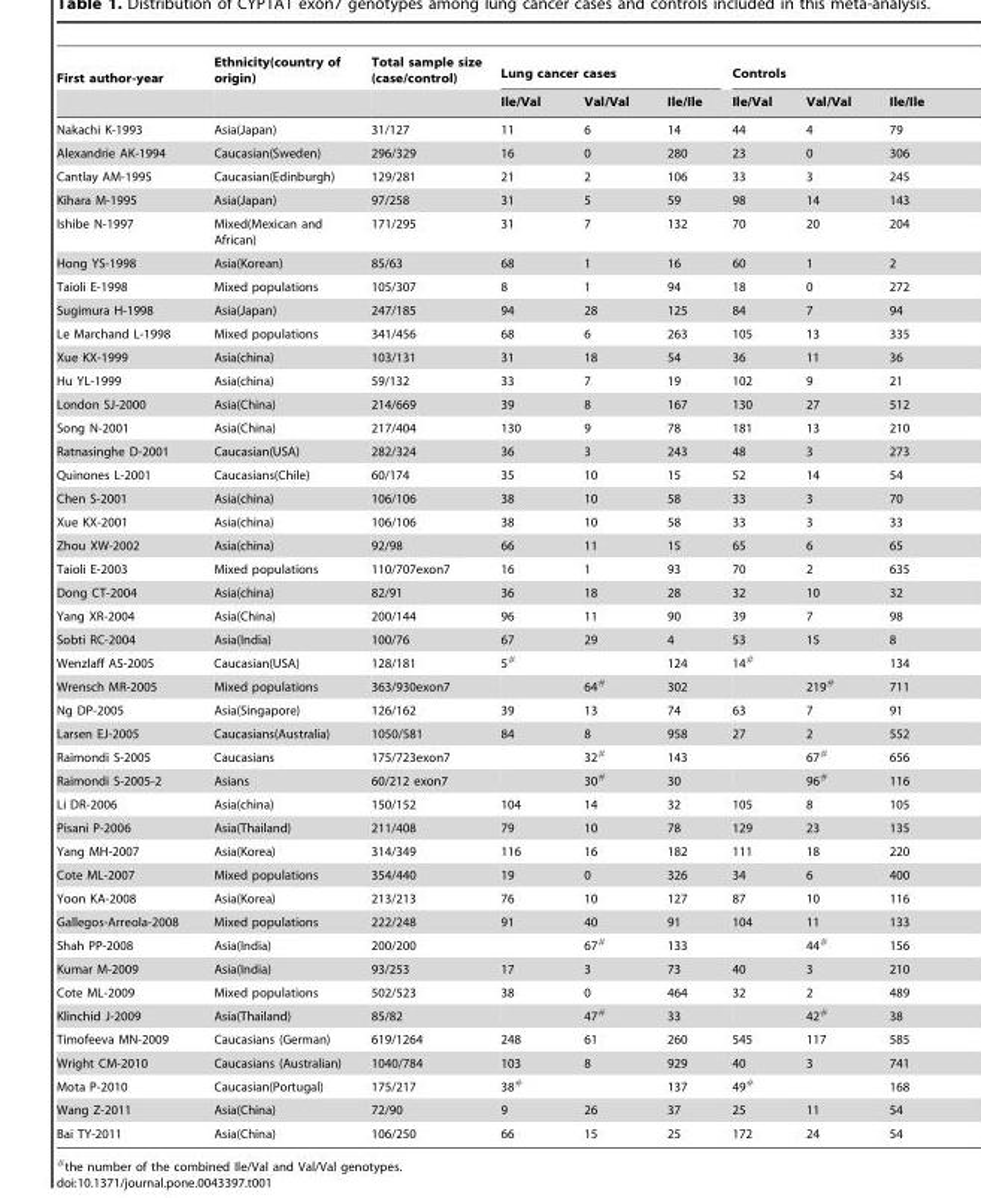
<table><thead><tr><td rowspan="2">First author-year</td><td rowspan="2">Ethnicity(country of origin)</td><td rowspan="2">Total sample size (case/control)</td><td colspan="3">Lung cancer cases</td><td colspan="3">Controls</td></tr><tr><td>Ile/Val</td><td>Val/Val</td><td>Ile/Ile</td><td>Ile/Val</td><td>Val/Val</td><td>Ile/Ile</td></tr></thead><tbody><tr><td>Nakachi K-1993</td><td>Asia(Japan)</td><td>31/127</td><td>11</td><td>6</td><td>14</td><td>44</td><td>4</td><td>79</td></tr><tr><td>Alexandrie AK-1994</td><td>Caucasian(Sweden)</td><td>296/329</td><td>16</td><td>0</td><td>280</td><td>23</td><td>0</td><td>306</td></tr><tr><td>Cantlay AM-1995</td><td>Caucasian(Edinburgh)</td><td>129/281</td><td>21</td><td>2</td><td>106</td><td>33</td><td>3</td><td>245</td></tr><tr><td>Kihara M-1995</td><td>Asia(Japan)</td><td>97/258</td><td>31</td><td>5</td><td>59</td><td>98</td><td>14</td><td>143</td></tr><tr><td>Ishibe N-1997</td><td>Mixed(Mexican and African)</td><td>171/295</td><td>31</td><td>7</td><td>132</td><td>70</td><td>20</td><td>204</td></tr><tr><td>Hong YS-1998</td><td>Asia(Korean)</td><td>85/63</td><td>68</td><td>1</td><td>16</td><td>60</td><td>1</td><td>2</td></tr><tr><td>Taioli E-1998</td><td>Mixed populations</td><td>105/307</td><td>8</td><td>1</td><td>94</td><td>18</td><td>0</td><td>272</td></tr><tr><td>Sugimura H-1998</td><td>Asia(Japan)</td><td>247/185</td><td>94</td><td>28</td><td>125</td><td>84</td><td>7</td><td>94</td></tr><tr><td>Le Marchand L-1998</td><td>Mixed populations</td><td>341/456</td><td>68</td><td>6</td><td>263</td><td>105</td><td>13</td><td>335</td></tr><tr><td>Xue KX-1999</td><td>Asia(china)</td><td>103/131</td><td>31</td><td>18</td><td>54</td><td>36</td><td>11</td><td>36</td></tr><tr><td>Hu YL-1999</td><td>Asia(china)</td><td>59/132</td><td>33</td><td>7</td><td>19</td><td>102</td><td>9</td><td>21</td></tr><tr><td>London SJ-2000</td><td>Asia(China)</td><td>214/669</td><td>39</td><td>8</td><td>167</td><td>130</td><td>27</td><td>512</td></tr><tr><td>Song N-2001</td><td>Asia(China)</td><td>217/404</td><td>130</td><td>9</td><td>78</td><td>181</td><td>13</td><td>210</td></tr><tr><td>Ratnasinghe D-2001</td><td>Caucasian(USA)</td><td>282/324</td><td>36</td><td>3</td><td>243</td><td>48</td><td>3</td><td>273</td></tr><tr><td>Quinones L-2001</td><td>Caucasians(Chile)</td><td>60/174</td><td>35</td><td>10</td><td>15</td><td>52</td><td>14</td><td>54</td></tr><tr><td>Chen S-2001</td><td>Asia(china)</td><td>106/106</td><td>38</td><td>10</td><td>58</td><td>33</td><td>3</td><td>70</td></tr><tr><td>Xue KX-2001</td><td>Asia(china)</td><td>106/106</td><td>38</td><td>10</td><td>58</td><td>33</td><td>3</td><td>33</td></tr><tr><td>Zhou XW-2002</td><td>Asia(china)</td><td>92/98</td><td>66</td><td>11</td><td>15</td><td>65</td><td>6</td><td>65</td></tr><tr><td>Taioli E-2003</td><td>Mixed populations</td><td>110/707exon7</td><td>16</td><td>1</td><td>93</td><td>70</td><td>2</td><td>635</td></tr><tr><td>Dong CT-2004</td><td>Asia(china)</td><td>82/91</td><td>36</td><td>18</td><td>28</td><td>32</td><td>10</td><td>32</td></tr><tr><td>Yang XR-2004</td><td>Asia(China)</td><td>200/144</td><td>96</td><td>11</td><td>90</td><td>39</td><td>7</td><td>98</td></tr><tr><td>Sobti RC-2004</td><td>Asia(India)</td><td>100/76</td><td>67</td><td>29</td><td>4</td><td>53</td><td>15</td><td>8</td></tr><tr><td>Wenzlaff AS-2005</td><td>Caucasian(USA)</td><td>128/181</td><td>5#</td><td></td><td>124</td><td>14#</td><td></td><td>134</td></tr><tr><td>Wrensch MR-2005</td><td>Mixed populations</td><td>363/930exon7</td><td></td><td>64#</td><td>302</td><td></td><td>219#</td><td>711</td></tr><tr><td>Ng DP-2005</td><td>Asia(Singapore)</td><td>126/162</td><td>39</td><td>13</td><td>74</td><td>63</td><td>7</td><td>91</td></tr><tr><td>Larsen EJ-2005</td><td>Caucasians(Australia)</td><td>1050/581</td><td>84</td><td>8</td><td>958</td><td>27</td><td>2</td><td>552</td></tr><tr><td>Raimondi S-2005</td><td>Caucasians</td><td>175/723exon7</td><td></td><td>32#</td><td>143</td><td></td><td>67#</td><td>656</td></tr><tr><td>Raimondi S-2005-2</td><td>Asians</td><td>60/212 exon7</td><td></td><td>30#</td><td>30</td><td></td><td>96#</td><td>116</td></tr><tr><td>Li DR-2006</td><td>Asia(china)</td><td>150/152</td><td>104</td><td>14</td><td>32</td><td>105</td><td>8</td><td>105</td></tr><tr><td>Pisani P-2006</td><td>Asia(Thailand)</td><td>211/408</td><td>79</td><td>10</td><td>78</td><td>129</td><td>23</td><td>135</td></tr><tr><td>Yang MH-2007</td><td>Asia(Korea)</td><td>314/349</td><td>116</td><td>16</td><td>182</td><td>111</td><td>18</td><td>220</td></tr><tr><td>Cote ML-2007</td><td>Mixed populations</td><td>354/440</td><td>19</td><td>0</td><td>326</td><td>34</td><td>6</td><td>400</td></tr><tr><td>Yoon KA-2008</td><td>Asia(Korea)</td><td>213/213</td><td>76</td><td>10</td><td>127</td><td>87</td><td>10</td><td>116</td></tr><tr><td>Gallegos-Arreola-2008</td><td>Mixed populations</td><td>222/248</td><td>91</td><td>40</td><td>91</td><td>104</td><td>11</td><td>133</td></tr><tr><td>Shah PP-2008</td><td>Asia(India)</td><td>200/200</td><td></td><td>67#</td><td>133</td><td></td><td>44#</td><td>156</td></tr><tr><td>Kumar M-2009</td><td>Asia(India)</td><td>93/253</td><td>17</td><td>3</td><td>73</td><td>40</td><td>3</td><td>210</td></tr><tr><td>Cote ML-2009</td><td>Mixed populations</td><td>502/523</td><td>38</td><td>0</td><td>464</td><td>32</td><td>2</td><td>489</td></tr><tr><td>Klinchid J-2009</td><td>Asia(Thailand)</td><td>85/82</td><td></td><td>47#</td><td>33</td><td></td><td>42#</td><td>38</td></tr><tr><td>Timofeeva MN-2009</td><td>Caucasians (German)</td><td>619/1264</td><td>248</td><td>61</td><td>260</td><td>545</td><td>117</td><td>585</td></tr><tr><td>Wright CM-2010</td><td>Caucasians (Australian)</td><td>1040/784</td><td>103</td><td>8</td><td>929</td><td>40</td><td>3</td><td>741</td></tr><tr><td>Mota P-2010</td><td>Caucasian(Portugal)</td><td>175/217</td><td>38#</td><td></td><td>137</td><td>49#</td><td></td><td>168</td></tr><tr><td>Wang Z-2011</td><td>Asia(China)</td><td>72/90</td><td>9</td><td>26</td><td>37</td><td>25</td><td>11</td><td>54</td></tr><tr><td>Bai TY-2011</td><td>Asia(China)</td><td>106/250</td><td>66</td><td>15</td><td>25</td><td>172</td><td>24</td><td>54</td></tr></tbody></table>